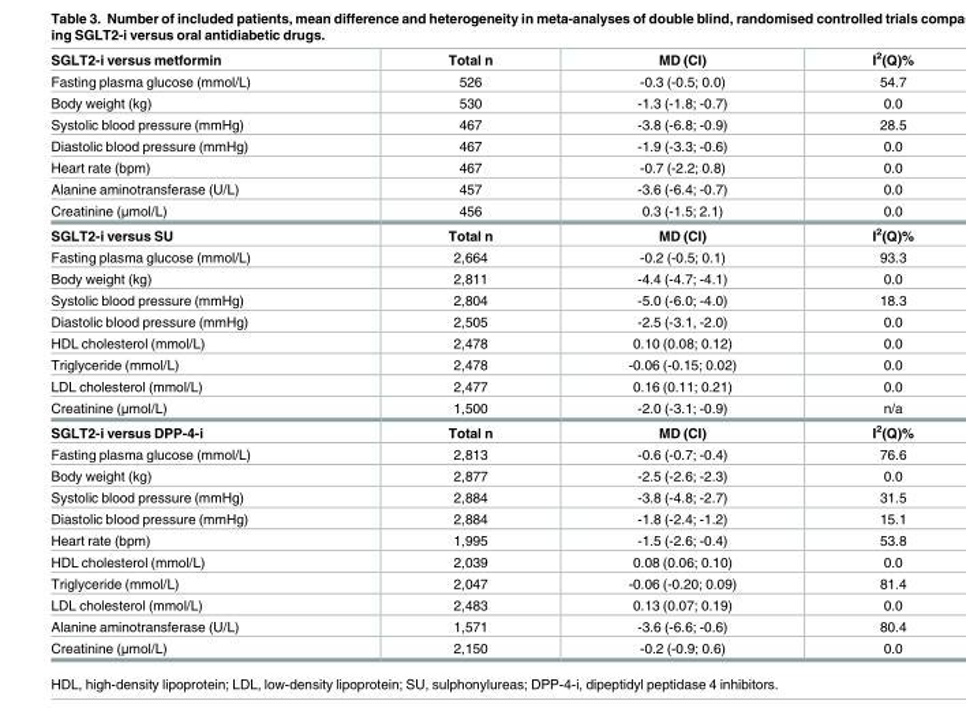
<table><tbody><tr><td>SGLT2-i versus metformin</td><td>Total n</td><td>MD (CI)</td><td>I<sup>2</sup>(Q)%</td></tr><tr><td>Fasting plasma glucose (mmol/L)</td><td>526</td><td>-0.3 (-0.5; 0.0)</td><td>54.7</td></tr><tr><td>Body weight (kg)</td><td>530</td><td>-1.3 (-1.8; -0.7)</td><td>0.0</td></tr><tr><td>Systolic blood pressure (mmHg)</td><td>467</td><td>-3.8 (-6.8; -0.9)</td><td>28.5</td></tr><tr><td>Diastolic blood pressure (mmHg)</td><td>467</td><td>-1.9 (-3.3; -0.6)</td><td>0.0</td></tr><tr><td>Heart rate (bpm)</td><td>467</td><td>-0.7 (-2.2; 0.8)</td><td>0.0</td></tr><tr><td>Alanine aminotransferase (U/L)</td><td>457</td><td>-3.6 (-6.4; -0.7)</td><td>0.0</td></tr><tr><td>Creatinine (μmol/L)</td><td>456</td><td>0.3 (-1.5; 2.1)</td><td>0.0</td></tr><tr><td>SGLT2-i versus SU</td><td>Total n</td><td>MD (CI)</td><td>I<sup>2</sup>(Q)%</td></tr><tr><td>Fasting plasma glucose (mmol/L)</td><td>2,664</td><td>-0.2 (-0.5; 0.1)</td><td>93.3</td></tr><tr><td>Body weight (kg)</td><td>2,811</td><td>-4.4 (-4.7; -4.1)</td><td>0.0</td></tr><tr><td>Systolic blood pressure (mmHg)</td><td>2,804</td><td>-5.0 (-6.0; -4.0)</td><td>18.3</td></tr><tr><td>Diastolic blood pressure (mmHg)</td><td>2,505</td><td>-2.5 (-3.1, -2.0)</td><td>0.0</td></tr><tr><td>HDL cholesterol (mmol/L)</td><td>2,478</td><td>0.10 (0.08; 0.12)</td><td>0.0</td></tr><tr><td>Triglyceride (mmol/L)</td><td>2,478</td><td>-0.06 (-0.15; 0.02)</td><td>0.0</td></tr><tr><td>LDL cholesterol (mmol/L)</td><td>2,477</td><td>0.16 (0.11; 0.21)</td><td>0.0</td></tr><tr><td>Creatinine (μmol/L)</td><td>1,500</td><td>-2.0 (-3.1; -0.9)</td><td>n/a</td></tr><tr><td>SGLT2-i versus DPP-4-i</td><td>Total n</td><td>MD (CI)</td><td>I<sup>2</sup>(Q)%</td></tr><tr><td>Fasting plasma glucose (mmol/L)</td><td>2,813</td><td>-0.6 (-0.7; -0.4)</td><td>76.6</td></tr><tr><td>Body weight (kg)</td><td>2,877</td><td>-2.5 (-2.6; -2.3)</td><td>0.0</td></tr><tr><td>Systolic blood pressure (mmHg)</td><td>2,884</td><td>-3.8 (-4.8; -2.7)</td><td>31.5</td></tr><tr><td>Diastolic blood pressure (mmHg)</td><td>2,884</td><td>-1.8 (-2.4; -1.2)</td><td>15.1</td></tr><tr><td>Heart rate (bpm)</td><td>1,995</td><td>-1.5 (-2.6; -0.4)</td><td>53.8</td></tr><tr><td>HDL cholesterol (mmol/L)</td><td>2,039</td><td>0.08 (0.06; 0.10)</td><td>0.0</td></tr><tr><td>Triglyceride (mmol/L)</td><td>2,047</td><td>-0.06 (-0.20; 0.09)</td><td>81.4</td></tr><tr><td>LDL cholesterol (mmol/L)</td><td>2,483</td><td>0.13 (0.07; 0.19)</td><td>0.0</td></tr><tr><td>Alanine aminotransferase (U/L)</td><td>1,571</td><td>-3.6 (-6.6; -0.6)</td><td>80.4</td></tr><tr><td>Creatinine (μmol/L)</td><td>2,150</td><td>-0.2 (-0.9; 0.6)</td><td>0.0</td></tr></tbody></table>